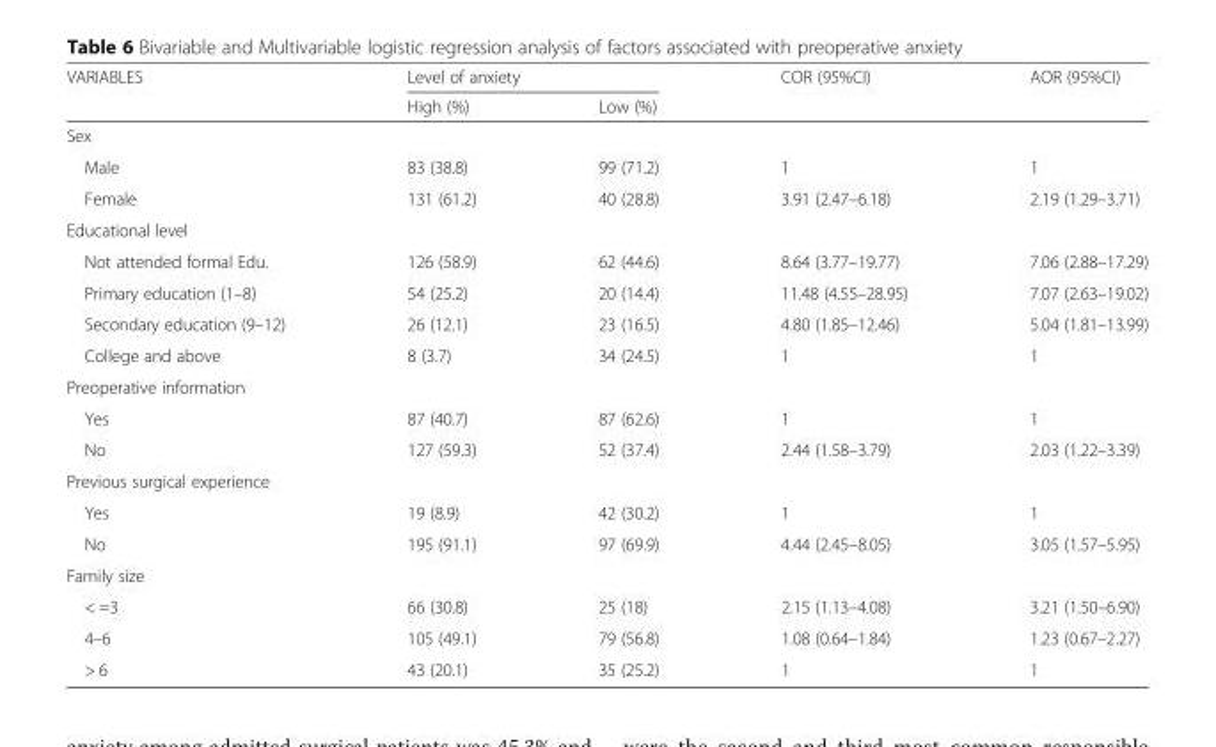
<table><thead><tr><td rowspan="2">VARIABLES</td><td colspan="2">Level of anxiety</td><td rowspan="2">COR (95%CI)</td><td rowspan="2">AOR (95%CI)</td></tr><tr><td>High (%)</td><td>Low (%)</td></tr></thead><tbody><tr><td colspan="5">Sex</td></tr><tr><td>Male</td><td>83 (38.8)</td><td>99 (71.2)</td><td>1</td><td>1</td></tr><tr><td>Female</td><td>131 (61.2)</td><td>40 (28.8)</td><td>3.91 (2.47–6.18)</td><td>2.19 (1.29–3.71)</td></tr><tr><td colspan="5">Educational level</td></tr><tr><td>Not attended formal Edu.</td><td>126 (58.9)</td><td>62 (44.6)</td><td>8.64 (3.77–19.77)</td><td>7.06 (2.88–17.29)</td></tr><tr><td>Primary education (1–8)</td><td>54 (25.2)</td><td>20 (14.4)</td><td>11.48 (4.55–28.95)</td><td>7.07 (2.63–19.02)</td></tr><tr><td>Secondary education (9–12)</td><td>26 (12.1)</td><td>23 (16.5)</td><td>4.80 (1.85–12.46)</td><td>5.04 (1.81–13.99)</td></tr><tr><td>College and above</td><td>8 (3.7)</td><td>34 (24.5)</td><td>1</td><td>1</td></tr><tr><td colspan="5">Preoperative information</td></tr><tr><td>Yes</td><td>87 (40.7)</td><td>87 (62.6)</td><td>1</td><td>1</td></tr><tr><td>No</td><td>127 (59.3)</td><td>52 (37.4)</td><td>2.44 (1.58–3.79)</td><td>2.03 (1.22–3.39)</td></tr><tr><td colspan="5">Previous surgical experience</td></tr><tr><td>Yes</td><td>19 (8.9)</td><td>42 (30.2)</td><td>1</td><td>1</td></tr><tr><td>No</td><td>195 (91.1)</td><td>97 (69.9)</td><td>4.44 (2.45–8.05)</td><td>3.05 (1.57–5.95)</td></tr><tr><td colspan="5">Family size</td></tr><tr><td>&lt; =3</td><td>66 (30.8)</td><td>25 (18)</td><td>2.15 (1.13–4.08)</td><td>3.21 (1.50–6.90)</td></tr><tr><td>4–6</td><td>105 (49.1)</td><td>79 (56.8)</td><td>1.08 (0.64–1.84)</td><td>1.23 (0.67–2.27)</td></tr><tr><td>&gt; 6</td><td>43 (20.1)</td><td>35 (25.2)</td><td>1</td><td>1</td></tr></tbody></table>